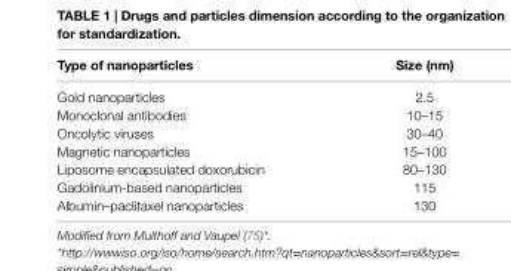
<table><thead><tr><td>Type of nanoparticles</td><td>Size (nm)</td></tr></thead><tbody><tr><td>Gold nanoparticles</td><td>2.5</td></tr><tr><td>Monoclonal antibodies</td><td>10–15</td></tr><tr><td>Oncolytic viruses</td><td>30–40</td></tr><tr><td>Magnetic nanoparticles</td><td>15–100</td></tr><tr><td>Liposome encapsulated doxorubicin</td><td>80–130</td></tr><tr><td>Gadolinium-based nanoparticles</td><td>115</td></tr><tr><td>Albumin–paclitaxel nanoparticles</td><td>130</td></tr></tbody></table>